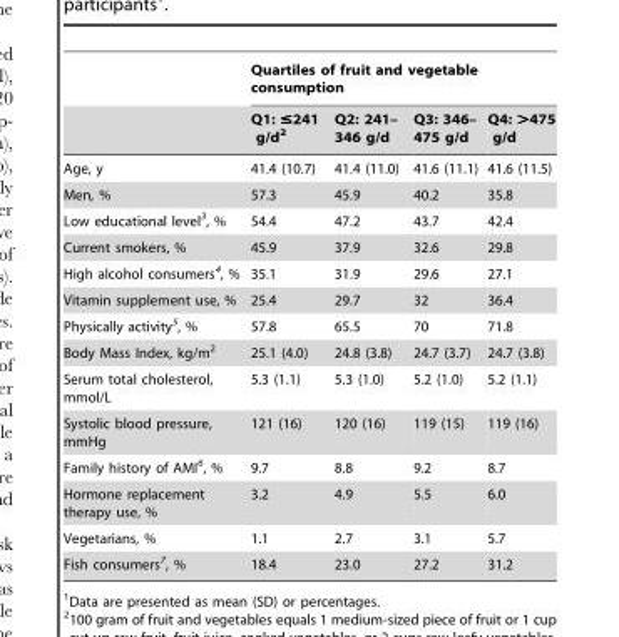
<table><thead><tr><td rowspan="2"></td><td colspan="4">Quartiles of fruit and vegetable consumption</td></tr><tr><td>Q1: ≤241 g/d<sup>2</sup></td><td>Q2: 241– 346 g/d</td><td>Q3: 346– 475 g/d</td><td>Q4: &gt;475 g/d</td></tr></thead><tbody><tr><td>Age, y</td><td>41.4 (10.7)</td><td>41.4 (11.0)</td><td>41.6 (11.1)</td><td>41.6 (11.5)</td></tr><tr><td>Men, %</td><td>57.3</td><td>45.9</td><td>40.2</td><td>35.8</td></tr><tr><td>Low educational level<sup>3</sup>, %</td><td>54.4</td><td>47.2</td><td>43.7</td><td>42.4</td></tr><tr><td>Current smokers, %</td><td>45.9</td><td>37.9</td><td>32.6</td><td>29.8</td></tr><tr><td>High alcohol consumers<sup>4</sup>, %</td><td>35.1</td><td>31.9</td><td>29.6</td><td>27.1</td></tr><tr><td>Vitamin supplement use, %</td><td>25.4</td><td>29.7</td><td>32</td><td>36.4</td></tr><tr><td>Physically activity<sup>5</sup>, %</td><td>57.8</td><td>65.5</td><td>70</td><td>71.8</td></tr><tr><td>Body Mass Index, kg/m<sup>2</sup></td><td>25.1 (4.0)</td><td>24.8 (3.8)</td><td>24.7 (3.7)</td><td>24.7 (3.8)</td></tr><tr><td>Serum total cholesterol, mmol/L</td><td>5.3 (1.1)</td><td>5.3 (1.0)</td><td>5.2 (1.0)</td><td>5.2 (1.1)</td></tr><tr><td>Systolic blood pressure, mmHg</td><td>121 (16)</td><td>120 (16)</td><td>119 (15)</td><td>119 (16)</td></tr><tr><td>Family history of AMI<sup>6</sup>, %</td><td>9.7</td><td>8.8</td><td>9.2</td><td>8.7</td></tr><tr><td>Hormone replacement therapy use, %</td><td>3.2</td><td>4.9</td><td>5.5</td><td>6.0</td></tr><tr><td>Vegetarians, %</td><td>1.1</td><td>2.7</td><td>3.1</td><td>5.7</td></tr><tr><td>Fish consumers<sup>7</sup>, %</td><td>18.4</td><td>23.0</td><td>27.2</td><td>31.2</td></tr></tbody></table>